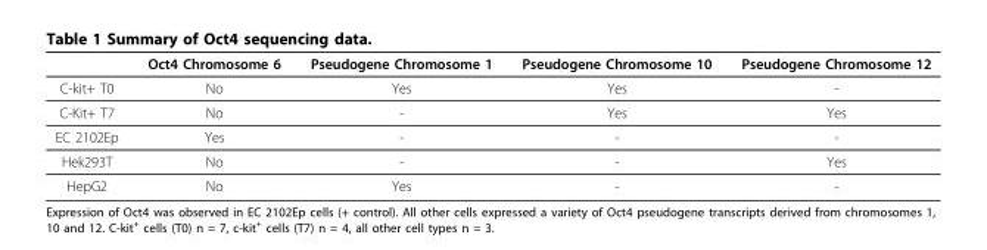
<table><thead><tr><td></td><td>Oct4 Chromosome 6</td><td>Pseudogene Chromosome 1</td><td>Pseudogene Chromosome 10</td><td>Pseudogene Chromosome 12</td></tr></thead><tbody><tr><td>C-kit+ T0</td><td>No</td><td>Yes</td><td>Yes</td><td>-</td></tr><tr><td>C-Kit+ T7</td><td>No</td><td>-</td><td>Yes</td><td>Yes</td></tr><tr><td>EC 2102Ep</td><td>Yes</td><td>-</td><td>-</td><td>-</td></tr><tr><td>Hek293T</td><td>No</td><td>-</td><td>-</td><td>Yes</td></tr><tr><td>HepG2</td><td>No</td><td>Yes</td><td>-</td><td>-</td></tr></tbody></table>